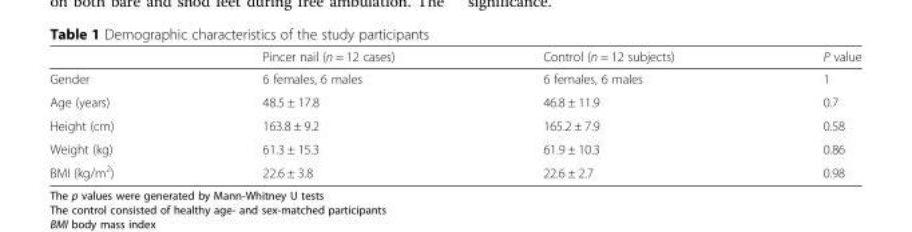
<table><thead><tr><td></td><td>Pincer nail (n = 12 cases)</td><td>Control (n = 12 subjects)</td><td>P value</td></tr></thead><tbody><tr><td>Gender</td><td>6 females, 6 males</td><td>6 females, 6 males</td><td>1</td></tr><tr><td>Age (years)</td><td>48.5 ± 17.8</td><td>46.8 ± 11.9</td><td>0.7</td></tr><tr><td>Height (cm)</td><td>163.8 ± 9.2</td><td>165.2 ± 7.9</td><td>0.58</td></tr><tr><td>Weight (kg)</td><td>61.3 ± 15.3</td><td>61.9 ± 10.3</td><td>0.86</td></tr><tr><td>BMI (kg/m<sup>2</sup>)</td><td>22.6 ± 3.8</td><td>22.6 ± 2.7</td><td>0.98</td></tr></tbody></table>